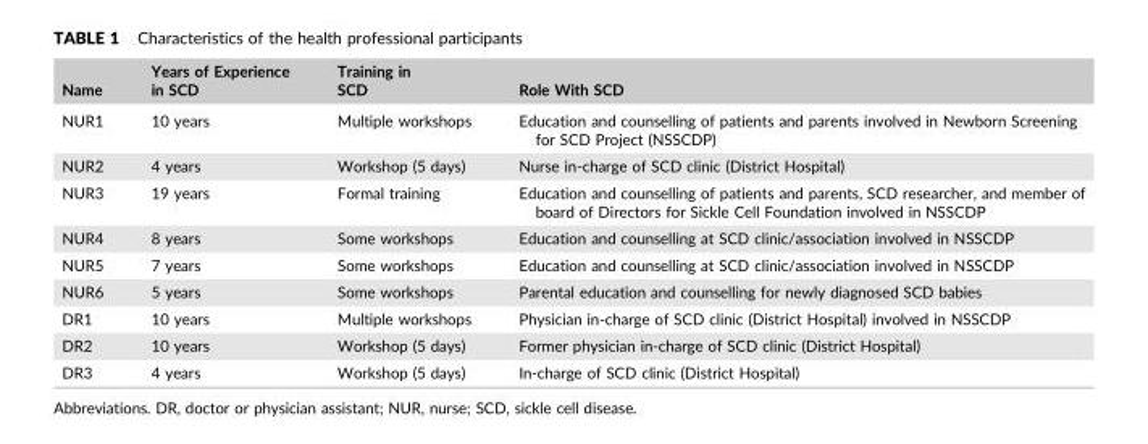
<table><thead><tr><td>Name</td><td>Years of Experience in SCD</td><td>Training in SCD</td><td>Role With SCD</td></tr></thead><tbody><tr><td>NUR1</td><td>10 years</td><td>Multiple workshops</td><td>Education and counselling of patients and parents involved in Newborn Screening for SCD Project (NSSCDP)</td></tr><tr><td>NUR2</td><td>4 years</td><td>Workshop (5 days)</td><td>Nurse in‐charge of SCD clinic (District Hospital)</td></tr><tr><td>NUR3</td><td>19 years</td><td>Formal training</td><td>Education and counselling of patients and parents, SCD researcher, and member of board of Directors for Sickle Cell Foundation involved in NSSCDP</td></tr><tr><td>NUR4</td><td>8 years</td><td>Some workshops</td><td>Education and counselling at SCD clinic/association involved in NSSCDP</td></tr><tr><td>NUR5</td><td>7 years</td><td>Some workshops</td><td>Education and counselling at SCD clinic/association involved in NSSCDP</td></tr><tr><td>NUR6</td><td>5 years</td><td>Some workshops</td><td>Parental education and counselling for newly diagnosed SCD babies</td></tr><tr><td>DR1</td><td>10 years</td><td>Multiple workshops</td><td>Physician in‐charge of SCD clinic (District Hospital) involved in NSSCDP</td></tr><tr><td>DR2</td><td>10 years</td><td>Workshop (5 days)</td><td>Former physician in‐charge of SCD clinic (District Hospital)</td></tr><tr><td>DR3</td><td>4 years</td><td>Workshop (5 days)</td><td>In‐charge of SCD clinic (District Hospital)</td></tr></tbody></table>